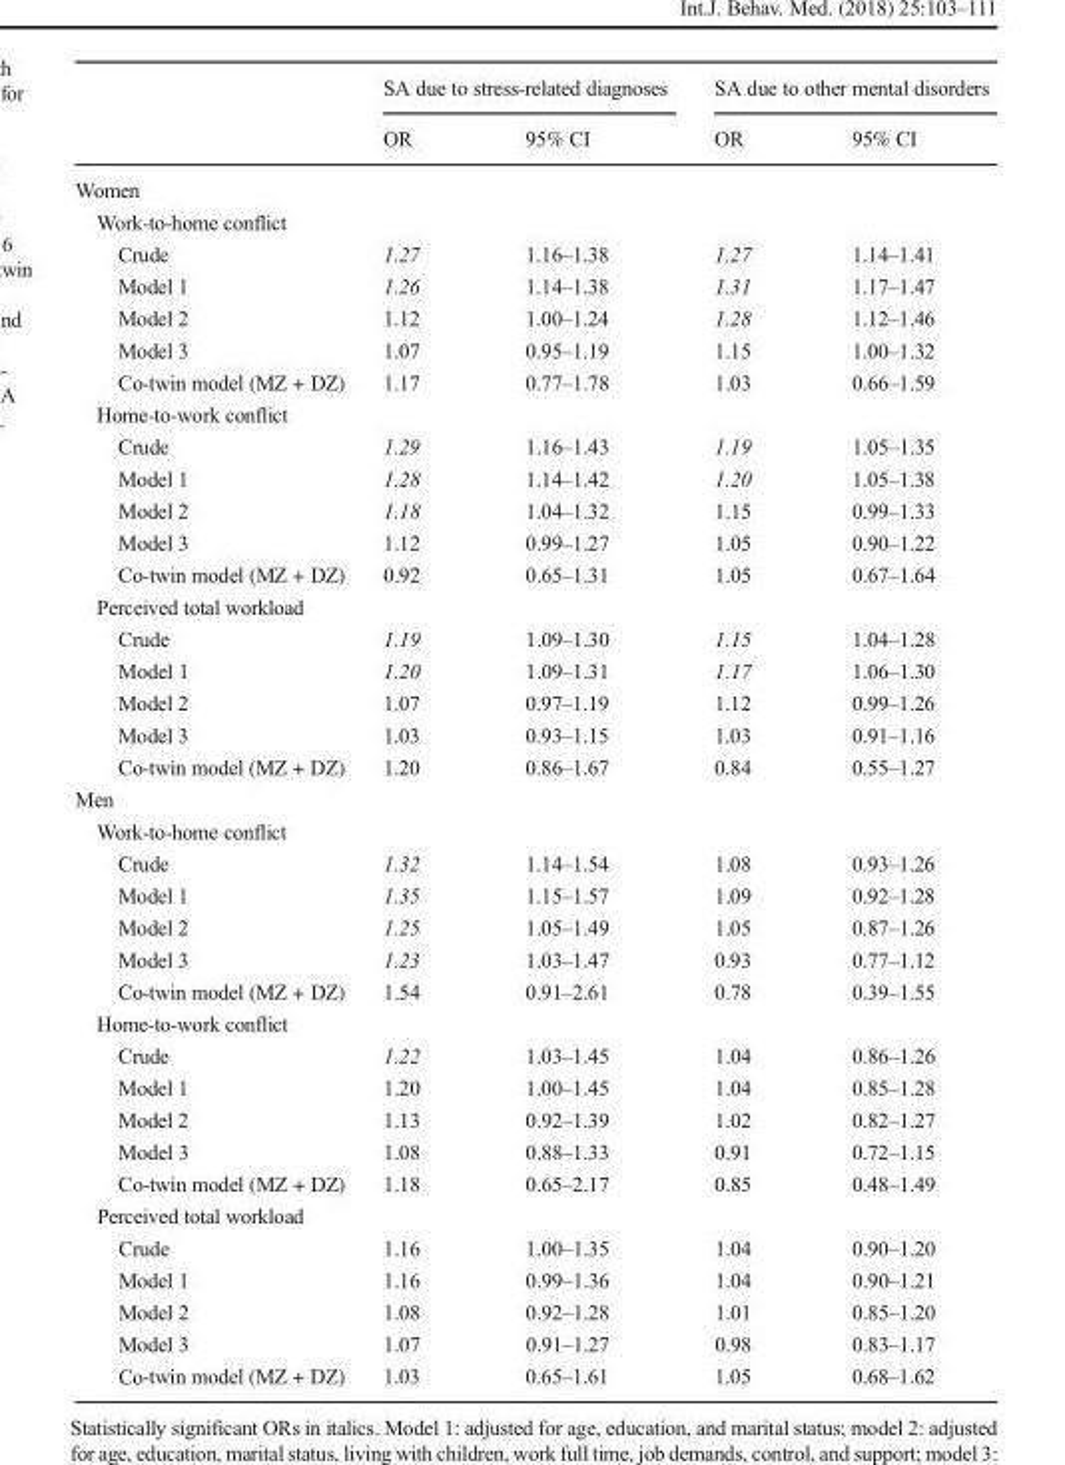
<table><thead><tr><td rowspan="2"></td><td colspan="2">SA due to stress-related diagnoses</td><td colspan="2">SA due to other mental disorders</td></tr><tr><td>OR</td><td>95% CI</td><td>OR</td><td>95% CI</td></tr></thead><tbody><tr><td colspan="5">Women</td></tr><tr><td colspan="5">Work-to-home conflict</td></tr><tr><td>Crude</td><td>1.27</td><td>1.16–1.38</td><td>1.27</td><td>1.14–1.41</td></tr><tr><td>Model 1</td><td>1.26</td><td>1.14–1.38</td><td>1.31</td><td>1.17–1.47</td></tr><tr><td>Model 2</td><td>1.12</td><td>1.00–1.24</td><td>1.28</td><td>1.12–1.46</td></tr><tr><td>Model 3</td><td>1.07</td><td>0.95–1.19</td><td>1.15</td><td>1.00–1.32</td></tr><tr><td>Co-twin model (MZ + DZ)</td><td>1.17</td><td>0.77–1.78</td><td>1.03</td><td>0.66–1.59</td></tr><tr><td colspan="5">Home-to-work conflict</td></tr><tr><td>Crude</td><td>1.29</td><td>1.16–1.43</td><td>1.19</td><td>1.05–1.35</td></tr><tr><td>Model 1</td><td>1.28</td><td>1.14–1.42</td><td>1.20</td><td>1.05–1.38</td></tr><tr><td>Model 2</td><td>1.18</td><td>1.04–1.32</td><td>1.15</td><td>0.99–1.33</td></tr><tr><td>Model 3</td><td>1.12</td><td>0.99–1.27</td><td>1.05</td><td>0.90–1.22</td></tr><tr><td>Co-twin model (MZ + DZ)</td><td>0.92</td><td>0.65–1.31</td><td>1.05</td><td>0.67–1.64</td></tr><tr><td colspan="5">Perceived total workload</td></tr><tr><td>Crude</td><td>1.19</td><td>1.09–1.30</td><td>1.15</td><td>1.04–1.28</td></tr><tr><td>Model 1</td><td>1.20</td><td>1.09–1.31</td><td>1.17</td><td>1.06–1.30</td></tr><tr><td>Model 2</td><td>1.07</td><td>0.97–1.19</td><td>1.12</td><td>0.99–1.26</td></tr><tr><td>Model 3</td><td>1.03</td><td>0.93–1.15</td><td>1.03</td><td>0.91–1.16</td></tr><tr><td>Co-twin model (MZ + DZ)</td><td>1.20</td><td>0.86–1.67</td><td>0.84</td><td>0.55–1.27</td></tr><tr><td colspan="5">Men</td></tr><tr><td colspan="5">Work-to-home conflict</td></tr><tr><td>Crude</td><td>1.32</td><td>1.14–1.54</td><td>1.08</td><td>0.93–1.26</td></tr><tr><td>Model 1</td><td>1.35</td><td>1.15–1.57</td><td>1.09</td><td>0.92–1.28</td></tr><tr><td>Model 2</td><td>1.25</td><td>1.05–1.49</td><td>1.05</td><td>0.87–1.26</td></tr><tr><td>Model 3</td><td>1.23</td><td>1.03–1.47</td><td>0.93</td><td>0.77–1.12</td></tr><tr><td>Co-twin model (MZ + DZ)</td><td>1.54</td><td>0.91–2.61</td><td>0.78</td><td>0.39–1.55</td></tr><tr><td colspan="5">Home-to-work conflict</td></tr><tr><td>Crude</td><td>1.22</td><td>1.03–1.45</td><td>1.04</td><td>0.86–1.26</td></tr><tr><td>Model 1</td><td>1.20</td><td>1.00–1.45</td><td>1.04</td><td>0.85–1.28</td></tr><tr><td>Model 2</td><td>1.13</td><td>0.92–1.39</td><td>1.02</td><td>0.82–1.27</td></tr><tr><td>Model 3</td><td>1.08</td><td>0.88–1.33</td><td>0.91</td><td>0.72–1.15</td></tr><tr><td>Co-twin model (MZ + DZ)</td><td>1.18</td><td>0.65–2.17</td><td>0.85</td><td>0.48–1.49</td></tr><tr><td colspan="5">Perceived total workload</td></tr><tr><td>Crude</td><td>1.16</td><td>1.00–1.35</td><td>1.04</td><td>0.90–1.20</td></tr><tr><td>Model 1</td><td>1.16</td><td>0.99–1.36</td><td>1.04</td><td>0.90–1.21</td></tr><tr><td>Model 2</td><td>1.08</td><td>0.92–1.28</td><td>1.01</td><td>0.85–1.20</td></tr><tr><td>Model 3</td><td>1.07</td><td>0.91–1.27</td><td>0.98</td><td>0.83–1.17</td></tr><tr><td>Co-twin model (MZ + DZ)</td><td>1.03</td><td>0.65–1.61</td><td>1.05</td><td>0.68–1.62</td></tr></tbody></table>